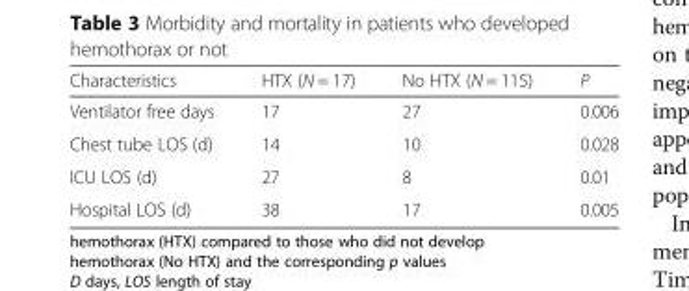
<table><thead><tr><td>Characteristics</td><td>HTX (N = 17)</td><td>No HTX (N = 115)</td><td>P</td></tr></thead><tbody><tr><td>Ventilator free days</td><td>17</td><td>27</td><td>0.006</td></tr><tr><td>Chest tube LOS (d)</td><td>14</td><td>10</td><td>0.028</td></tr><tr><td>ICU LOS (d)</td><td>27</td><td>8</td><td>0.01</td></tr><tr><td>Hospital LOS (d)</td><td>38</td><td>17</td><td>0.005</td></tr></tbody></table>